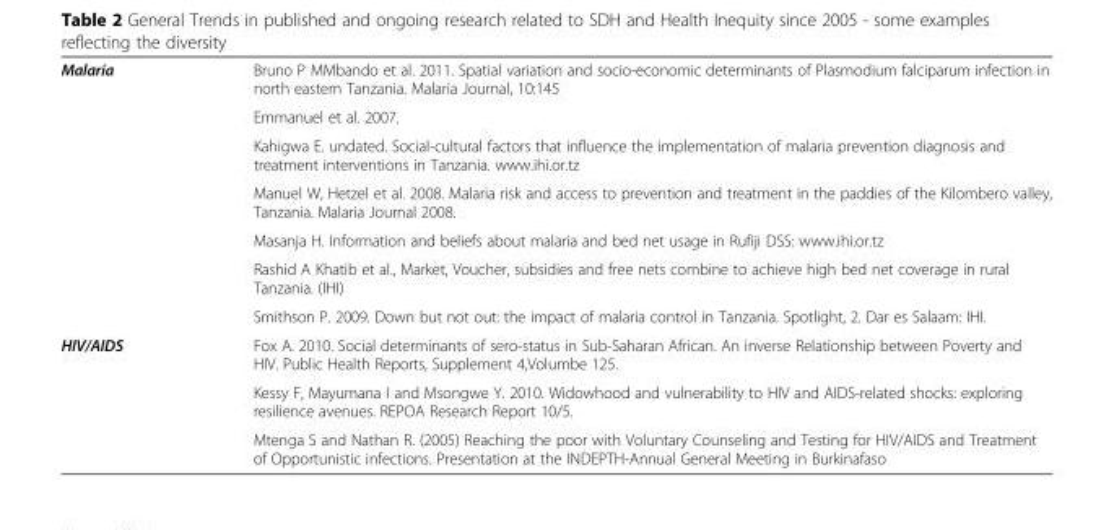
<table><tbody><tr><td rowspan="7">Malaria</td><td>Bruno P MMbando et al. 2011. Spatial variation and socio-economic determinants of Plasmodium falciparum infection in north eastern Tanzania. Malaria Journal, 10:145</td></tr><tr><td>Emmanuel et al. 2007.</td></tr><tr><td>Kahigwa E. undated. Social-cultural factors that influence the implementation of malaria prevention diagnosis and treatment interventions in Tanzania. www.ihi.or.tz</td></tr><tr><td>Manuel W, Hetzel et al. 2008. Malaria risk and access to prevention and treatment in the paddies of the Kilombero valley, Tanzania. Malaria Journal 2008.</td></tr><tr><td>Masanja H. Information and beliefs about malaria and bed net usage in Rufiji DSS: www.ihi.or.tz</td></tr><tr><td>Rashid A Khatib et al., Market, Voucher, subsidies and free nets combine to achieve high bed net coverage in rural Tanzania. (IHI)</td></tr><tr><td>Smithson P. 2009. Down but not out: the impact of malaria control in Tanzania. Spotlight, 2. Dar es Salaam: IHI.</td></tr><tr><td rowspan="3">HIV/AIDS</td><td>Fox A. 2010. Social determinants of sero-status in Sub-Saharan African. An inverse Relationship between Poverty and HIV. Public Health Reports, Supplement 4,Volumbe 125.</td></tr><tr><td>Kessy F, Mayumana I and Msongwe Y. 2010. Widowhood and vulnerability to HIV and AIDS-related shocks: exploring resilience avenues. REPOA Research Report 10/5.</td></tr><tr><td>Mtenga S and Nathan R. (2005) Reaching the poor with Voluntary Counseling and Testing for HIV/AIDS and Treatment of Opportunistic infections. Presentation at the INDEPTH-Annual General Meeting in Burkinafaso</td></tr></tbody></table>